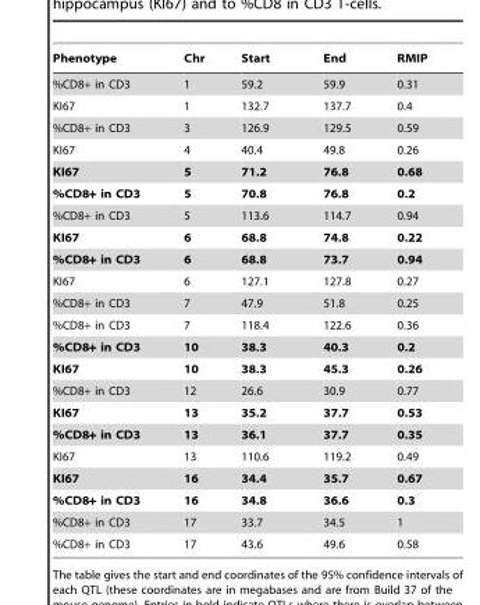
<table><thead><tr><td>Phenotype</td><td>Chr</td><td>Start</td><td>End</td><td>RMIP</td></tr></thead><tbody><tr><td>%CD8+ in CD3</td><td>1</td><td>59.2</td><td>59.9</td><td>0.31</td></tr><tr><td>KI67</td><td>1</td><td>132.7</td><td>137.7</td><td>0.4</td></tr><tr><td>%CD8+ in CD3</td><td>3</td><td>126.9</td><td>129.5</td><td>0.59</td></tr><tr><td>KI67</td><td>4</td><td>40.4</td><td>49.8</td><td>0.26</td></tr><tr><td>KI67</td><td>5</td><td>71.2</td><td>76.8</td><td>0.68</td></tr><tr><td>%CD8+ in CD3</td><td>5</td><td>70.8</td><td>76.8</td><td>0.2</td></tr><tr><td>%CD8+ in CD3</td><td>5</td><td>113.6</td><td>114.7</td><td>0.94</td></tr><tr><td>KI67</td><td>6</td><td>68.8</td><td>74.8</td><td>0.22</td></tr><tr><td>%CD8+ in CD3</td><td>6</td><td>68.8</td><td>73.7</td><td>0.94</td></tr><tr><td>KI67</td><td>6</td><td>127.1</td><td>127.8</td><td>0.27</td></tr><tr><td>%CD8+ in CD3</td><td>7</td><td>47.9</td><td>51.8</td><td>0.25</td></tr><tr><td>%CD8+ in CD3</td><td>7</td><td>118.4</td><td>122.6</td><td>0.36</td></tr><tr><td>%CD8+ in CD3</td><td>10</td><td>38.3</td><td>40.3</td><td>0.2</td></tr><tr><td>KI67</td><td>10</td><td>38.3</td><td>45.3</td><td>0.26</td></tr><tr><td>%CD8+ in CD3</td><td>12</td><td>26.6</td><td>30.9</td><td>0.77</td></tr><tr><td>KI67</td><td>13</td><td>35.2</td><td>37.7</td><td>0.53</td></tr><tr><td>%CD8+ in CD3</td><td>13</td><td>36.1</td><td>37.7</td><td>0.35</td></tr><tr><td>KI67</td><td>13</td><td>110.6</td><td>119.2</td><td>0.49</td></tr><tr><td>KI67</td><td>16</td><td>34.4</td><td>35.7</td><td>0.67</td></tr><tr><td>%CD8+ in CD3</td><td>16</td><td>34.8</td><td>36.6</td><td>0.3</td></tr><tr><td>%CD8+ in CD3</td><td>17</td><td>33.7</td><td>34.5</td><td>1</td></tr><tr><td>%CD8+ in CD3</td><td>17</td><td>43.6</td><td>49.6</td><td>0.58</td></tr></tbody></table>